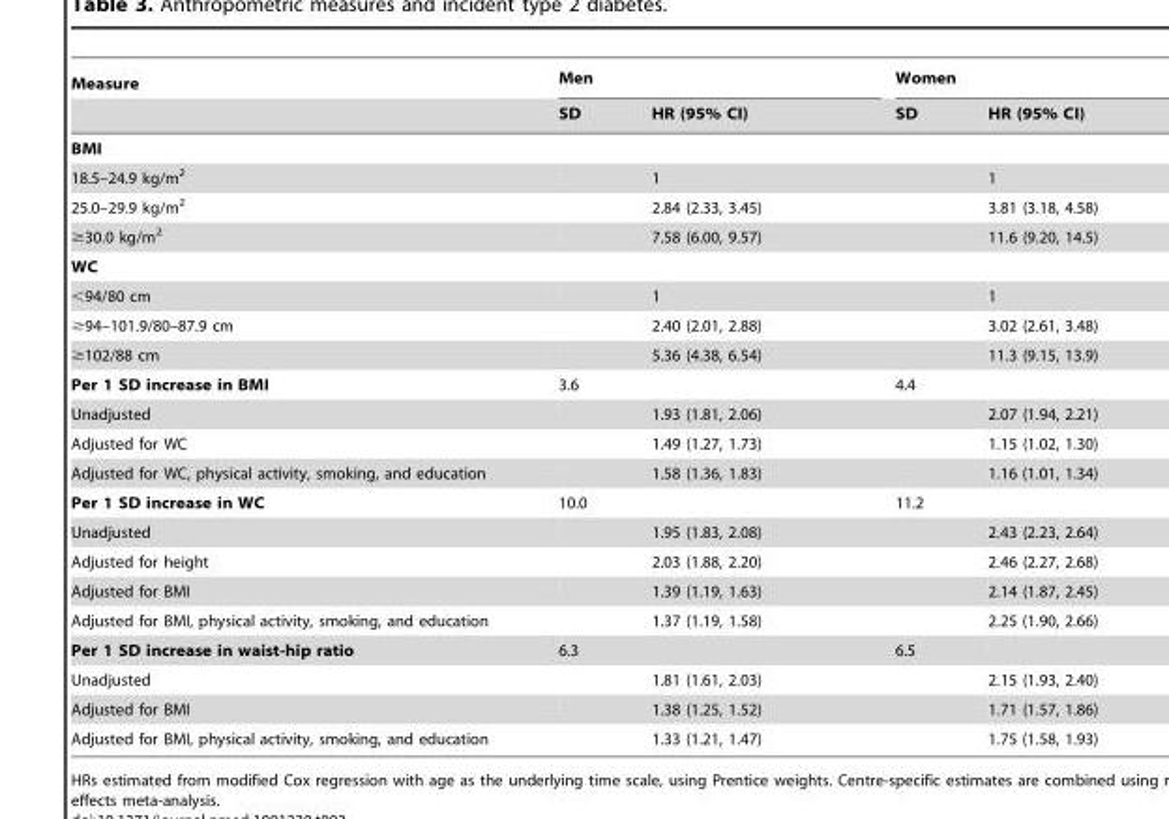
<table><thead><tr><td rowspan="2">Measure</td><td colspan="2">Men</td><td colspan="2">Women</td></tr><tr><td>SD</td><td>HR (95% CI)</td><td>SD</td><td>HR (95% CI)</td></tr></thead><tbody><tr><td colspan="5">BMI</td></tr><tr><td>18.5–24.9 kg/m<sup>2</sup></td><td></td><td>1</td><td></td><td>1</td></tr><tr><td>25.0–29.9 kg/m<sup>2</sup></td><td></td><td>2.84 (2.33, 3.45)</td><td></td><td>3.81 (3.18, 4.58)</td></tr><tr><td>≥30.0 kg/m<sup>2</sup></td><td></td><td>7.58 (6.00, 9.57)</td><td></td><td>11.6 (9.20, 14.5)</td></tr><tr><td colspan="5">WC</td></tr><tr><td>&lt;94/80 cm</td><td></td><td>1</td><td></td><td>1</td></tr><tr><td>≥94–101.9/80–87.9 cm</td><td></td><td>2.40 (2.01, 2.88)</td><td></td><td>3.02 (2.61, 3.48)</td></tr><tr><td>≥102/88 cm</td><td></td><td>5.36 (4.38, 6.54)</td><td></td><td>11.3 (9.15, 13.9)</td></tr><tr><td>Per 1 SD increase in BMI</td><td>3.6</td><td></td><td>4.4</td><td></td></tr><tr><td>Unadjusted</td><td></td><td>1.93 (1.81, 2.06)</td><td></td><td>2.07 (1.94, 2.21)</td></tr><tr><td>Adjusted for WC</td><td></td><td>1.49 (1.27, 1.73)</td><td></td><td>1.15 (1.02, 1.30)</td></tr><tr><td>Adjusted for WC, physical activity, smoking, and education</td><td></td><td>1.58 (1.36, 1.83)</td><td></td><td>1.16 (1.01, 1.34)</td></tr><tr><td>Per 1 SD increase in WC</td><td>10.0</td><td></td><td>11.2</td><td></td></tr><tr><td>Unadjusted</td><td></td><td>1.95 (1.83, 2.08)</td><td></td><td>2.43 (2.23, 2.64)</td></tr><tr><td>Adjusted for height</td><td></td><td>2.03 (1.88, 2.20)</td><td></td><td>2.46 (2.27, 2.68)</td></tr><tr><td>Adjusted for BMI</td><td></td><td>1.39 (1.19, 1.63)</td><td></td><td>2.14 (1.87, 2.45)</td></tr><tr><td>Adjusted for BMI, physical activity, smoking, and education</td><td></td><td>1.37 (1.19, 1.58)</td><td></td><td>2.25 (1.90, 2.66)</td></tr><tr><td>Per 1 SD increase in waist-hip ratio</td><td>6.3</td><td></td><td>6.5</td><td></td></tr><tr><td>Unadjusted</td><td></td><td>1.81 (1.61, 2.03)</td><td></td><td>2.15 (1.93, 2.40)</td></tr><tr><td>Adjusted for BMI</td><td></td><td>1.38 (1.25, 1.52)</td><td></td><td>1.71 (1.57, 1.86)</td></tr><tr><td>Adjusted for BMI, physical activity, smoking, and education</td><td></td><td>1.33 (1.21, 1.47)</td><td></td><td>1.75 (1.58, 1.93)</td></tr></tbody></table>